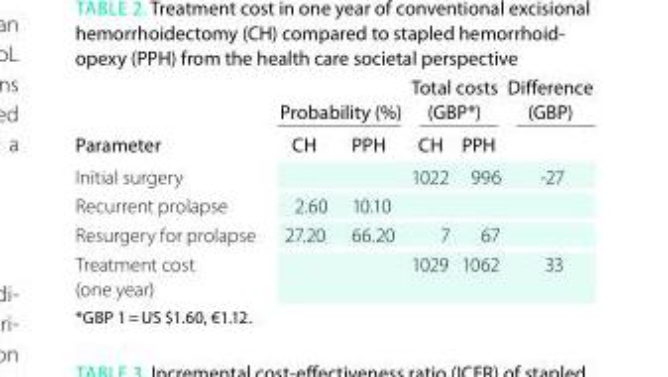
<table><thead><tr><td rowspan="2">Parameter</td><td colspan="2">Probability (%)</td><td colspan="2">total costs (GBP*)</td><td rowspan="2">Difference (GBP)</td></tr><tr><td>Ch</td><td>PPh</td><td>Ch</td><td>PPh</td></tr></thead><tbody><tr><td>Initial surgery</td><td></td><td></td><td>1022</td><td>996</td><td>-27</td></tr><tr><td>Recurrent prolapse</td><td>2.60</td><td>10.10</td><td></td><td></td><td></td></tr><tr><td>Resurgery for prolapse</td><td>27.20</td><td>66.20</td><td>7</td><td>67</td><td></td></tr><tr><td>Treatment cost (one year)</td><td></td><td></td><td>1029</td><td>1062</td><td>33</td></tr></tbody></table>